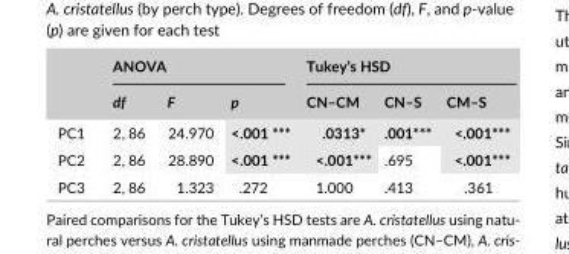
<table><thead><tr><td rowspan="2"></td><td colspan="3">ANOVA</td><td colspan="3">Tukey’s HSD</td></tr><tr><td>df</td><td>F</td><td>p</td><td>CN–CM</td><td>CN–S</td><td>CM–S</td></tr></thead><tbody><tr><td>PC1</td><td>2, 86</td><td>24.970</td><td>&lt;.001 ***</td><td>.0313*</td><td>.001***</td><td>&lt;.001***</td></tr><tr><td>PC2</td><td>2, 86</td><td>28.890</td><td>&lt;.001 ***</td><td>&lt;.001***</td><td>.695</td><td>&lt;.001***</td></tr><tr><td>PC3</td><td>2, 86</td><td>1.323</td><td>.272</td><td>1.000</td><td>.413</td><td>.361</td></tr></tbody></table>